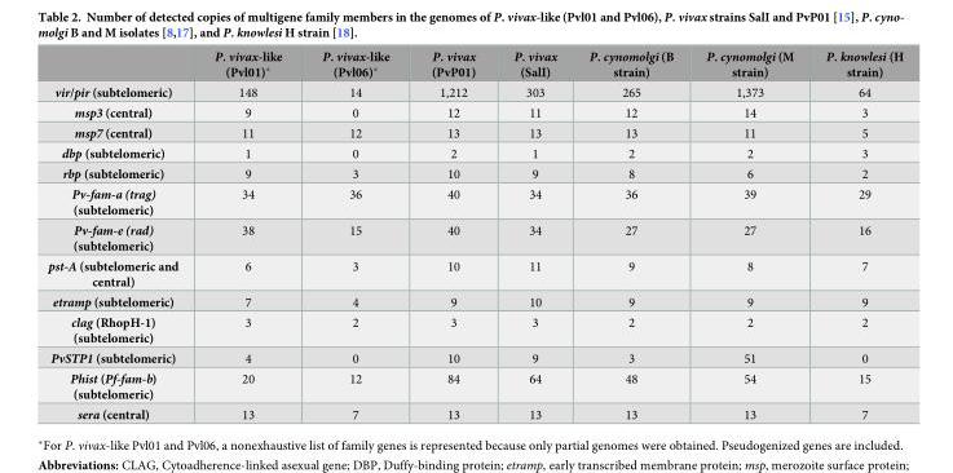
<table><thead><tr><td></td><td>P. vivax-like (Pvl01)*</td><td>P. vivax-like (Pvl06)*</td><td>P. vivax (PvP01)</td><td>P. vivax (SalI)</td><td>P. cynomolgi (B strain)</td><td>P. cynomolgi (M strain)</td><td>P. knowlesi (H strain)</td></tr></thead><tbody><tr><td>vir/pir (subtelomeric)</td><td>148</td><td>14</td><td>1,212</td><td>303</td><td>265</td><td>1,373</td><td>64</td></tr><tr><td>msp3 (central)</td><td>9</td><td>0</td><td>12</td><td>11</td><td>12</td><td>14</td><td>3</td></tr><tr><td>msp7 (central)</td><td>11</td><td>12</td><td>13</td><td>13</td><td>13</td><td>11</td><td>5</td></tr><tr><td>dbp (subtelomeric)</td><td>1</td><td>0</td><td>2</td><td>1</td><td>2</td><td>2</td><td>3</td></tr><tr><td>rbp (subtelomeric)</td><td>9</td><td>3</td><td>10</td><td>9</td><td>8</td><td>6</td><td>2</td></tr><tr><td>Pv-fam-a (trag) (subtelomeric)</td><td>34</td><td>36</td><td>40</td><td>34</td><td>36</td><td>39</td><td>29</td></tr><tr><td>Pv-fam-e (rad) (subtelomeric)</td><td>38</td><td>15</td><td>40</td><td>34</td><td>27</td><td>27</td><td>16</td></tr><tr><td>pst-A (subtelomeric and central)</td><td>6</td><td>3</td><td>10</td><td>11</td><td>9</td><td>8</td><td>7</td></tr><tr><td>etramp (subtelomeric)</td><td>7</td><td>4</td><td>9</td><td>10</td><td>9</td><td>9</td><td>9</td></tr><tr><td>clag (RhopH-1) (subtelomeric)</td><td>3</td><td>2</td><td>3</td><td>3</td><td>2</td><td>2</td><td>2</td></tr><tr><td>PvSTP1 (subtelomeric)</td><td>4</td><td>0</td><td>10</td><td>9</td><td>3</td><td>51</td><td>0</td></tr><tr><td>Phist (Pf-fam-b) (subtelomeric)</td><td>20</td><td>12</td><td>84</td><td>64</td><td>48</td><td>54</td><td>15</td></tr><tr><td>sera (central)</td><td>13</td><td>7</td><td>13</td><td>13</td><td>13</td><td>13</td><td>7</td></tr></tbody></table>